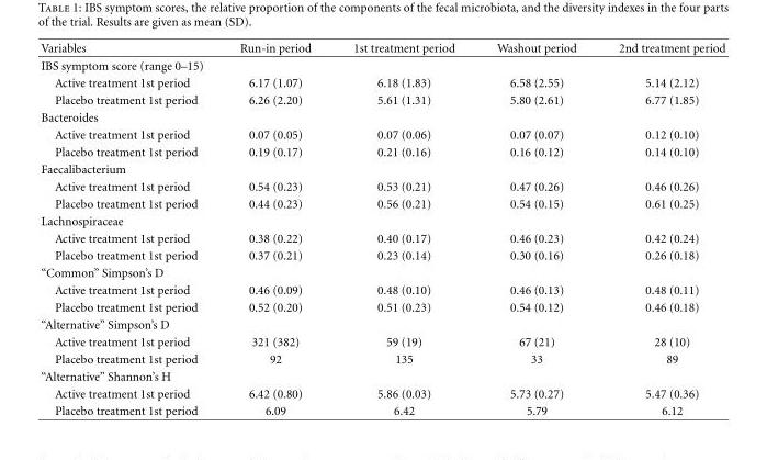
<table><thead><tr><td>Variables</td><td>Run-in period</td><td>1st treatment period</td><td>Washout period</td><td>2nd treatment period</td></tr></thead><tbody><tr><td colspan="5">IBS symptom score (range 0–15)</td></tr><tr><td>Active treatment 1st period</td><td>6.17 (1.07)</td><td>6.18 (1.83)</td><td>6.58 (2.55)</td><td>5.14 (2.12)</td></tr><tr><td>Placebo treatment 1st period</td><td>6.26 (2.20)</td><td>5.61 (1.31)</td><td>5.80 (2.61)</td><td>6.77 (1.85)</td></tr><tr><td colspan="5">Bacteroides</td></tr><tr><td>Active treatment 1st period</td><td>0.07 (0.05)</td><td>0.07 (0.06)</td><td>0.07 (0.07)</td><td>0.12 (0.10)</td></tr><tr><td>Placebo treatment 1st period</td><td>0.19 (0.17)</td><td>0.21 (0.16)</td><td>0.16 (0.12)</td><td>0.14 (0.10)</td></tr><tr><td colspan="5">Faecalibacterium</td></tr><tr><td>Active treatment 1st period</td><td>0.54 (0.23)</td><td>0.53 (0.21)</td><td>0.47 (0.26)</td><td>0.46 (0.26)</td></tr><tr><td>Placebo treatment 1st period</td><td>0.44 (0.23)</td><td>0.56 (0.21)</td><td>0.54 (0.15)</td><td>0.61 (0.25)</td></tr><tr><td colspan="5">Lachnospiraceae</td></tr><tr><td>Active treatment 1st period</td><td>0.38 (0.22)</td><td>0.40 (0.17)</td><td>0.46 (0.23)</td><td>0.42 (0.24)</td></tr><tr><td>Placebo treatment 1st period</td><td>0.37 (0.21)</td><td>0.23 (0.14)</td><td>0.30 (0.16)</td><td>0.26 (0.18)</td></tr><tr><td colspan="5">“Common” Simpson’s D</td></tr><tr><td>Active treatment 1st period</td><td>0.46 (0.09)</td><td>0.48 (0.10)</td><td>0.46 (0.13)</td><td>0.48 (0.11)</td></tr><tr><td>Placebo treatment 1st period</td><td>0.52 (0.20)</td><td>0.51 (0.23)</td><td>0.54 (0.12)</td><td>0.46 (0.18)</td></tr><tr><td colspan="5">“Alternative” Simpson’s D</td></tr><tr><td>Active treatment 1st period</td><td>321 (382)</td><td>59 (19)</td><td>67 (21)</td><td>28 (10)</td></tr><tr><td>Placebo treatment 1st period</td><td>92</td><td>135</td><td>33</td><td>89</td></tr><tr><td colspan="5">“Alternative” Shannon’s H</td></tr><tr><td>Active treatment 1st period</td><td>6.42 (0.80)</td><td>5.86 (0.03)</td><td>5.73 (0.27)</td><td>5.47 (0.36)</td></tr><tr><td>Placebo treatment 1st period</td><td>6.09</td><td>6.42</td><td>5.79</td><td>6.12</td></tr></tbody></table>